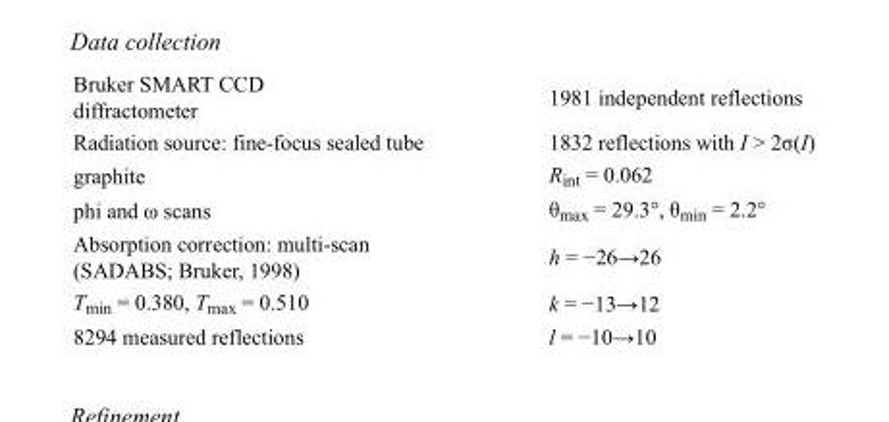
<table><tbody><tr><td>Bruker SMART CCD diffractometer</td><td>1981 independent reflections</td></tr><tr><td>Radiation source: fine-focus sealed tube</td><td>1832 reflections with I &gt; 2σ(I)</td></tr><tr><td>graphite</td><td>R<sub>int</sub> = 0.062</td></tr><tr><td>phi and ω scans</td><td>θ<sub>max</sub> = 29.3°, θ<sub>min</sub> = 2.2°</td></tr><tr><td>Absorption correction: multi-scan (SADABS; Bruker, 1998)</td><td>h = −26→26</td></tr><tr><td>T<sub>min</sub> = 0.380, T<sub>max</sub> = 0.510</td><td>k = −13→12</td></tr><tr><td>8294 measured reflections</td><td>l = −10→10</td></tr></tbody></table>